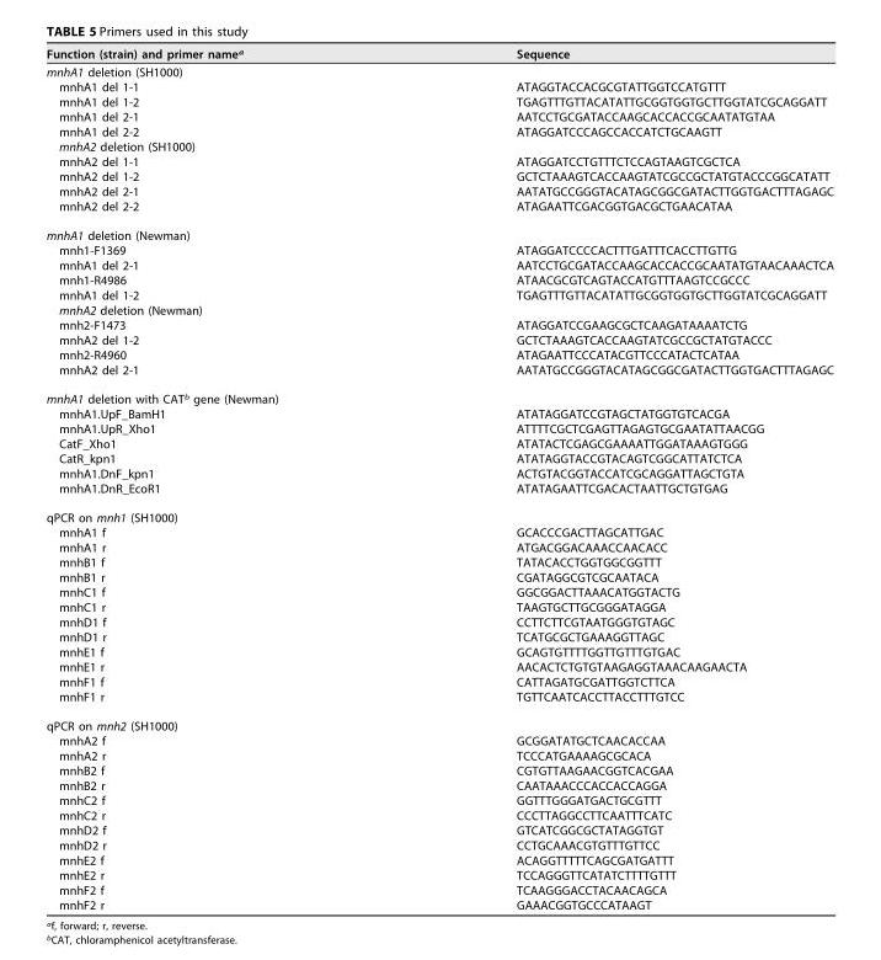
<table><thead><tr><td>Function (strain) and primer name<sup>a</sup></td><td>Sequence</td></tr></thead><tbody><tr><td colspan="2">mnhA1 deletion (SH1000)</td></tr><tr><td>mnhA1 del 1-1</td><td>ATAGGTACCACGCGTATTGGTCCATGTTT</td></tr><tr><td>mnhA1 del 1-2</td><td>TGAGTTTGTTACATATTGCGGTGGTGCTTGGTATCGCAGGATT</td></tr><tr><td>mnhA1 del 2-1</td><td>AATCCTGCGATACCAAGCACCACCGCAATATGTAA</td></tr><tr><td>mnhA1 del 2-2</td><td>ATAGGATCCCAGCCACCATCTGCAAGTT</td></tr><tr><td colspan="2">mnhA2 deletion (SH1000)</td></tr><tr><td>mnhA2 del 1-1</td><td>ATAGGATCCTGTTTCTCCAGTAAGTCGCTCA</td></tr><tr><td>mnhA2 del 1-2</td><td>GCTCTAAAGTCACCAAGTATCGCCGCTATGTACCCGGCATATT</td></tr><tr><td>mnhA2 del 2-1</td><td>AATATGCCGGGTACATAGCGGCGATACTTGGTGACTTTAGAGC</td></tr><tr><td>mnhA2 del 2-2</td><td>ATAGAATTCGACGGTGACGCTGAACATAA</td></tr><tr><td colspan="2">mnhA1 deletion (Newman)</td></tr><tr><td>mnh1-F1369</td><td>ATAGGATCCCCACTTTGATTTCACCTTGTTG</td></tr><tr><td>mnhA1 del 2-1</td><td>AATCCTGCGATACCAAGCACCACCGCAATATGTAACAAACTCA</td></tr><tr><td>mnh1-R4986</td><td>ATAACGCGTCAGTACCATGTTTAAGTCCGCCC</td></tr><tr><td>mnhA1 del 1-2</td><td>TGAGTTTGTTACATATTGCGGTGGTGCTTGGTATCGCAGGATT</td></tr><tr><td colspan="2">mnhA2 deletion (Newman)</td></tr><tr><td>mnh2-F1473</td><td>ATAGGATCCGAAGCGCTCAAGATAAAATCTG</td></tr><tr><td>mnhA2 del 1-2</td><td>GCTCTAAAGTCACCAAGTATCGCCGCTATGTACCC</td></tr><tr><td>mnh2-R4960</td><td>ATAGAATTCCCATACGTTCCCATACTCATAA</td></tr><tr><td>mnhA2 del 2-1</td><td>AATATGCCGGGTACATAGCGGCGATACTTGGTGACTTTAGAGC</td></tr><tr><td colspan="2">mnhA1 deletion with CAT<sup>b</sup> gene (Newman)</td></tr><tr><td>mnhA1.UpF_BamH1</td><td>ATATAGGATCCGTAGCTATGGTGTCACGA</td></tr><tr><td>mnhA1.UpR_Xho1</td><td>ATTTTCGCTCGAGTTAGAGTGCGAATATTAACGG</td></tr><tr><td>CatF_Xho1</td><td>ATATACTCGAGCGAAAATTGGATAAAGTGGG</td></tr><tr><td>CatR_kpn1</td><td>ATATAGGTACCGTACAGTCGGCATTATCTCA</td></tr><tr><td>mnhA1.DnF_kpn1</td><td>ACTGTACGGTACCATCGCAGGATTAGCTGTA</td></tr><tr><td>mnhA1.DnR_EcoR1</td><td>ATATAGAATTCGACACTAATTGCTGTGAG</td></tr><tr><td colspan="2">qPCR on mnh1 (SH1000)</td></tr><tr><td>mnhA1 f</td><td>GCACCCGACTTAGCATTGAC</td></tr><tr><td>mnhA1 r</td><td>ATGACGGACAAACCAACACC</td></tr><tr><td>mnhB1 f</td><td>TATACACCTGGTGGCGGTTT</td></tr><tr><td>mnhB1 r</td><td>CGATAGGCGTCGCAATACA</td></tr><tr><td>mnhC1 f</td><td>GGCGGACTTAAACATGGTACTG</td></tr><tr><td>mnhC1 r</td><td>TAAGTGCTTGCGGGATAGGA</td></tr><tr><td>mnhD1 f</td><td>CCTTCTTCGTAATGGGTGTAGC</td></tr><tr><td>mnhD1 r</td><td>TCATGCGCTGAAAGGTTAGC</td></tr><tr><td>mnhE1 f</td><td>GCAGTGTTTTGGTTGTTTGTGAC</td></tr><tr><td>mnhE1 r</td><td>AACACTCTGTGTAAGAGGTAAACAAGAACTA</td></tr><tr><td>mnhF1 f</td><td>CATTAGATGCGATTGGTCTTCA</td></tr><tr><td>mnhF1 r</td><td>TGTTCAATCACCTTACCTTTGTCC</td></tr><tr><td colspan="2">qPCR on mnh2 (SH1000)</td></tr><tr><td>mnhA2 f</td><td>GCGGATATGCTCAACACCAA</td></tr><tr><td>mnhA2 r</td><td>TCCCATGAAAAGCGCACA</td></tr><tr><td>mnhB2 f</td><td>CGTGTTAAGAACGGTCACGAA</td></tr><tr><td>mnhB2 r</td><td>CAATAAACCCACCACCAGGA</td></tr><tr><td>mnhC2 f</td><td>GGTTTGGGATGACTGCGTTT</td></tr><tr><td>mnhC2 r</td><td>CCCTTAGGCCTTCAATTTCATC</td></tr><tr><td>mnhD2 f</td><td>GTCATCGGCGCTATAGGTGT</td></tr><tr><td>mnhD2 r</td><td>CCTGCAAACGTGTTTGTTCC</td></tr><tr><td>mnhE2 f</td><td>ACAGGTTTTTCAGCGATGATTT</td></tr><tr><td>mnhE2 r</td><td>TCCAGGGTTCATATCTTTTGTTT</td></tr><tr><td>mnhF2 f</td><td>TCAAGGGACCTACAACAGCA</td></tr><tr><td>mnhF2 r</td><td>GAAACGGTGCCCATAAGT</td></tr></tbody></table>